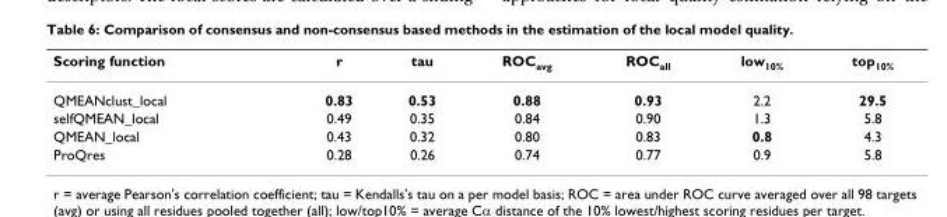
<table><thead><tr><td>Scoring function</td><td>r</td><td>tau</td><td>ROC<sub>avg</sub></td><td>ROC<sub>all</sub></td><td>low<sub>10%</sub></td><td>top<sub>10%</sub></td></tr></thead><tbody><tr><td>QMEANclust_local</td><td>0.83</td><td>0.53</td><td>0.88</td><td>0.93</td><td>2.2</td><td>29.5</td></tr><tr><td>selfQMEAN_local</td><td>0.49</td><td>0.35</td><td>0.84</td><td>0.90</td><td>1.3</td><td>5.8</td></tr><tr><td>QMEAN_local</td><td>0.43</td><td>0.32</td><td>0.80</td><td>0.83</td><td>0.8</td><td>4.3</td></tr><tr><td>ProQres</td><td>0.28</td><td>0.26</td><td>0.74</td><td>0.77</td><td>0.9</td><td>5.8</td></tr></tbody></table>